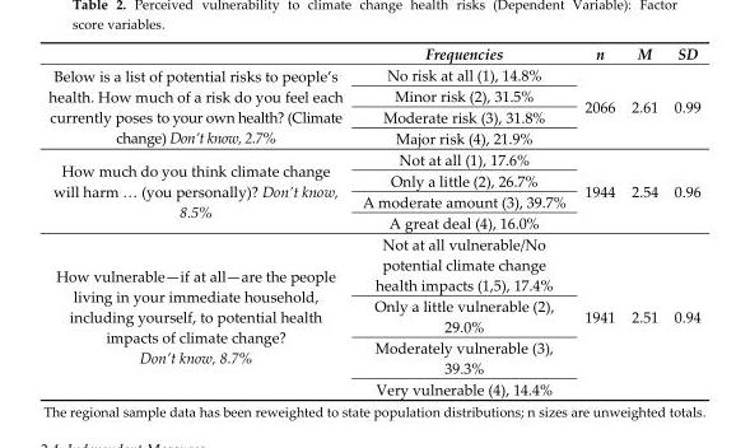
<table><thead><tr><td></td><td>Frequencies</td><td>n</td><td>M</td><td>SD</td></tr></thead><tbody><tr><td rowspan="4">Below is a list of potential risks to people’s health. How much of a risk do you feel each currently poses to your own health? (Climate change) Don’t know, 2.7%</td><td>No risk at all (1), 14.8%</td><td rowspan="4">2066</td><td rowspan="4">2.61</td><td rowspan="4">0.99</td></tr><tr><td>Minor risk (2), 31.5%</td></tr><tr><td>Moderate risk (3), 31.8%</td></tr><tr><td>Major risk (4), 21.9%</td></tr><tr><td rowspan="4">How much do you think climate change will harm … (you personally)? Don’t know, 8.5%</td><td>Not at all (1), 17.6%</td><td rowspan="4">1944</td><td rowspan="4">2.54</td><td rowspan="4">0.96</td></tr><tr><td>Only a little (2), 26.7%</td></tr><tr><td>A moderate amount (3), 39.7%</td></tr><tr><td>A great deal (4), 16.0%</td></tr><tr><td rowspan="4">How vulnerable—if at all—are the people living in your immediate household, including yourself, to potential health impacts of climate change? Don’t know, 8.7%</td><td>Not at all vulnerable/No potential climate change health impacts (1,5), 17.4%</td><td rowspan="4">1941</td><td rowspan="4">2.51</td><td rowspan="4">0.94</td></tr><tr><td>Only a little vulnerable (2), 29.0%</td></tr><tr><td>Moderately vulnerable (3), 39.3%</td></tr><tr><td>Very vulnerable (4), 14.4%</td></tr></tbody></table>